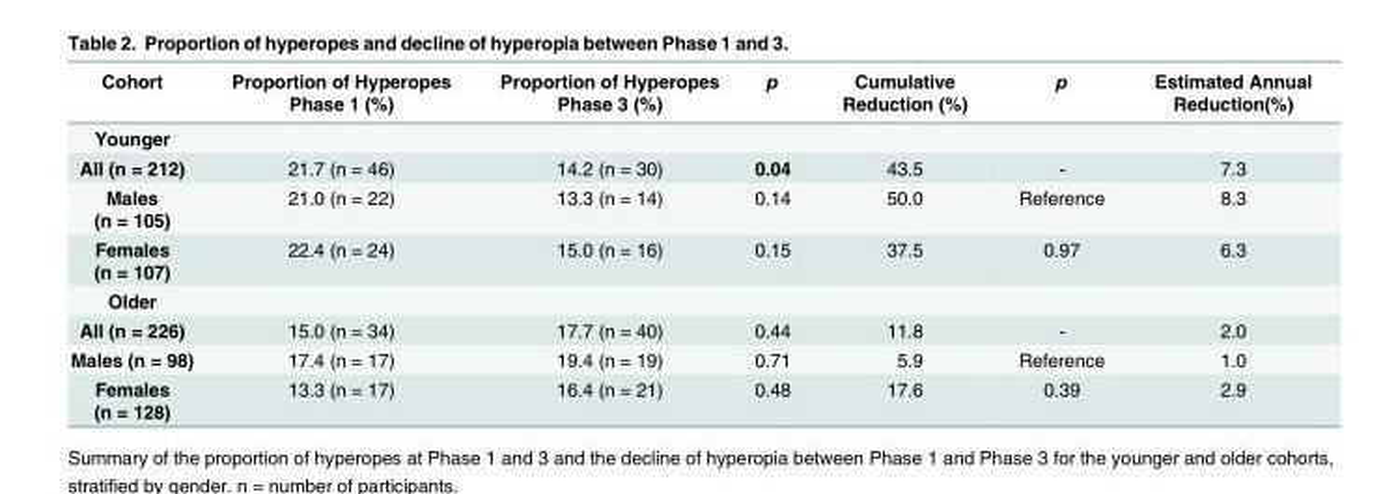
<table><thead><tr><td>Cohort</td><td>Proportion of Hyperopes Phase 1 (%)</td><td>Proportion of Hyperopes Phase 3 (%)</td><td>p</td><td>Cumulative Reduction (%)</td><td>p</td><td>Estimated Annual Reduction(%)</td></tr></thead><tbody><tr><td colspan="7">Younger</td></tr><tr><td>All (n = 212)</td><td>21.7 (n = 46)</td><td>14.2 (n = 30)</td><td>0.04</td><td>43.5</td><td>-</td><td>7.3</td></tr><tr><td>Males (n = 105)</td><td>21.0 (n = 22)</td><td>13.3 (n = 14)</td><td>0.14</td><td>50.0</td><td>Reference</td><td>8.3</td></tr><tr><td>Females (n = 107)</td><td>22.4 (n = 24)</td><td>15.0 (n = 16)</td><td>0.15</td><td>37.5</td><td>0.97</td><td>6.3</td></tr><tr><td colspan="7">Older</td></tr><tr><td>All (n = 226)</td><td>15.0 (n = 34)</td><td>17.7 (n = 40)</td><td>0.44</td><td>11.8</td><td>-</td><td>2.0</td></tr><tr><td>Males (n = 98)</td><td>17.4 (n = 17)</td><td>19.4 (n = 19)</td><td>0.71</td><td>5.9</td><td>Reference</td><td>1.0</td></tr><tr><td>Females (n = 128)</td><td>13.3 (n = 17)</td><td>16.4 (n = 21)</td><td>0.48</td><td>17.6</td><td>0.39</td><td>2.9</td></tr></tbody></table>